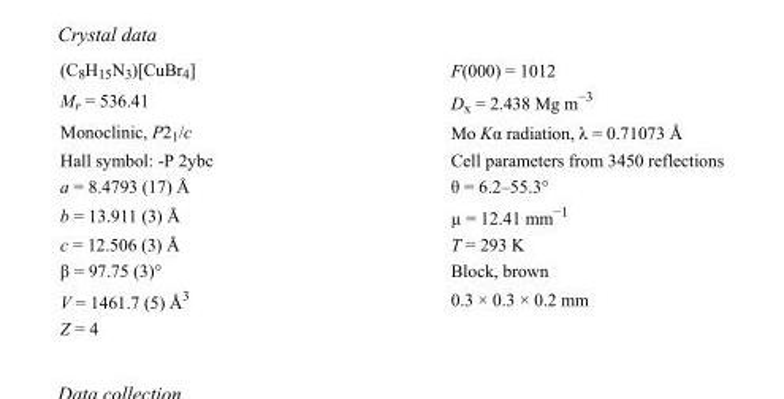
<table><tbody><tr><td>(C<sub>8</sub>H<sub>15</sub>N<sub>3</sub>)[CuBr<sub>4</sub>]</td><td>F(000) = 1012</td></tr><tr><td>M<sub>r</sub> = 536.41</td><td>D<sub>x</sub> = 2.438 Mg m<sup>−3</sup></td></tr><tr><td>Monoclinic, P2<sub>1</sub>/c</td><td>Mo Kα radiation, λ = 0.71073 Å</td></tr><tr><td>Hall symbol: -P 2ybc</td><td>Cell parameters from 3450 reflections</td></tr><tr><td>a = 8.4793 (17) Å</td><td>θ = 6.2–55.3°</td></tr><tr><td>b = 13.911 (3) Å</td><td>µ = 12.41 mm<sup>−1</sup></td></tr><tr><td>c = 12.506 (3) Å</td><td>T = 293 K</td></tr><tr><td>β = 97.75 (3)°</td><td>Block, brown</td></tr><tr><td>V = 1461.7 (5) Å<sup>3</sup></td><td>0.3 × 0.3 × 0.2 mm</td></tr><tr><td>Z = 4</td><td></td></tr></tbody></table>